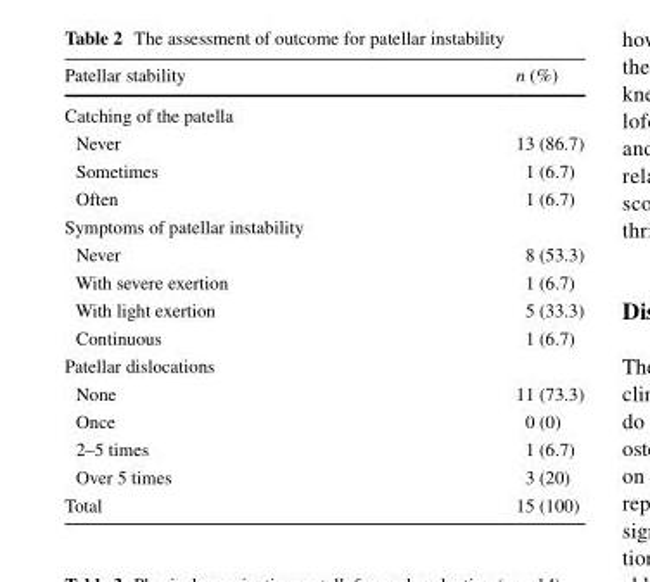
<table><thead><tr><td>Patellar stability</td><td>n (%)</td></tr></thead><tbody><tr><td colspan="2">Catching of the patella</td></tr><tr><td>Never</td><td>13 (86.7)</td></tr><tr><td>Sometimes</td><td>1 (6.7)</td></tr><tr><td>Often</td><td>1 (6.7)</td></tr><tr><td colspan="2">Symptoms of patellar instability</td></tr><tr><td>Never</td><td>8 (53.3)</td></tr><tr><td>With severe exertion</td><td>1 (6.7)</td></tr><tr><td>With light exertion</td><td>5 (33.3)</td></tr><tr><td>Continuous</td><td>1 (6.7)</td></tr><tr><td colspan="2">Patellar dislocations</td></tr><tr><td>None</td><td>11 (73.3)</td></tr><tr><td>Once</td><td>0 (0)</td></tr><tr><td>2–5 times</td><td>1 (6.7)</td></tr><tr><td>Over 5 times</td><td>3 (20)</td></tr><tr><td>Total</td><td>15 (100)</td></tr></tbody></table>